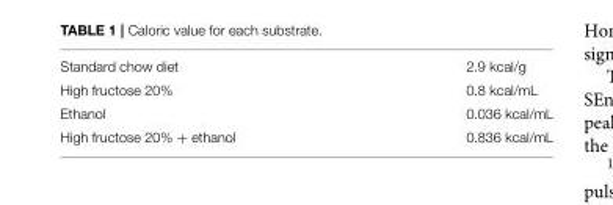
<table><tbody><tr><td>Standard chow diet</td><td>2.9 kcal/g</td></tr><tr><td>High fructose 20%</td><td>0.8 kcal/mL</td></tr><tr><td>Ethanol</td><td>0.036 kcal/mL</td></tr><tr><td>High fructose 20% + ethanol</td><td>0.836 kcal/mL</td></tr></tbody></table>